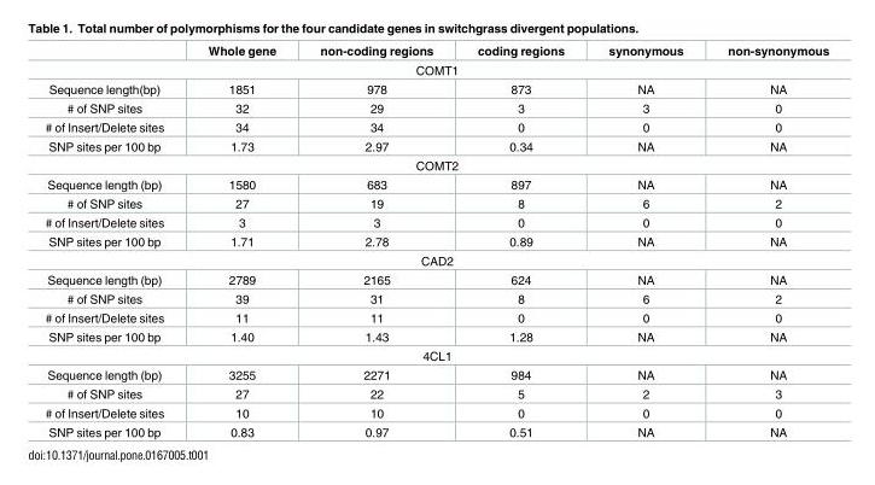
<table><thead><tr><td></td><td>Whole gene</td><td>non-coding regions</td><td>coding regions</td><td>synonymous</td><td>non-synonymous</td></tr></thead><tbody><tr><td colspan="6">COMT1</td></tr><tr><td>Sequence length(bp)</td><td>1851</td><td>978</td><td>873</td><td>NA</td><td>NA</td></tr><tr><td># of SNP sites</td><td>32</td><td>29</td><td>3</td><td>3</td><td>0</td></tr><tr><td># of Insert/Delete sites</td><td>34</td><td>34</td><td>0</td><td>0</td><td>0</td></tr><tr><td>SNP sites per 100 bp</td><td>1.73</td><td>2.97</td><td>0.34</td><td>NA</td><td>NA</td></tr><tr><td colspan="6">COMT2</td></tr><tr><td>Sequence length (bp)</td><td>1580</td><td>683</td><td>897</td><td>NA</td><td>NA</td></tr><tr><td># of SNP sites</td><td>27</td><td>19</td><td>8</td><td>6</td><td>2</td></tr><tr><td># of Insert/Delete sites</td><td>3</td><td>3</td><td>0</td><td>0</td><td>0</td></tr><tr><td>SNP sites per 100 bp</td><td>1.71</td><td>2.78</td><td>0.89</td><td>NA</td><td>NA</td></tr><tr><td colspan="6">CAD2</td></tr><tr><td>Sequence length (bp)</td><td>2789</td><td>2165</td><td>624</td><td>NA</td><td>NA</td></tr><tr><td># of SNP sites</td><td>39</td><td>31</td><td>8</td><td>6</td><td>2</td></tr><tr><td># of Insert/Delete sites</td><td>11</td><td>11</td><td>0</td><td>0</td><td>0</td></tr><tr><td>SNP sites per 100 bp</td><td>1.40</td><td>1.43</td><td>1.28</td><td>NA</td><td>NA</td></tr><tr><td colspan="6">4CL1</td></tr><tr><td>Sequence length (bp)</td><td>3255</td><td>2271</td><td>984</td><td>NA</td><td>NA</td></tr><tr><td># of SNP sites</td><td>27</td><td>22</td><td>5</td><td>2</td><td>3</td></tr><tr><td># of Insert/Delete sites</td><td>10</td><td>10</td><td>0</td><td>0</td><td>0</td></tr><tr><td>SNP sites per 100 bp</td><td>0.83</td><td>0.97</td><td>0.51</td><td>NA</td><td>NA</td></tr></tbody></table>